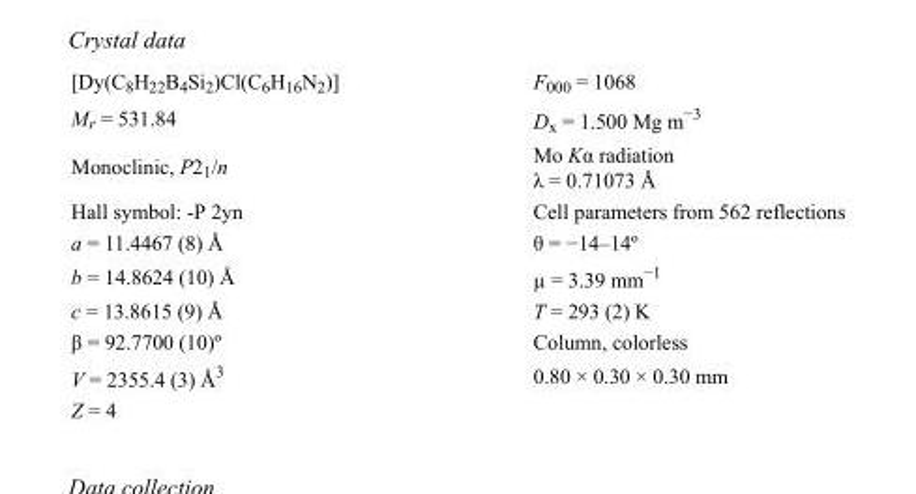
<table><tbody><tr><td>[Dy(C<sub>8</sub>H<sub>22</sub>B<sub>4</sub>Si<sub>2</sub>)Cl(C<sub>6</sub>H<sub>16</sub>N<sub>2</sub>)]</td><td>F<sub>000</sub> = 1068</td></tr><tr><td>M<sub>r</sub> = 531.84</td><td>D<sub>x</sub> = 1.500 Mg m<sup>−3</sup></td></tr><tr><td>Monoclinic, P2<sub>1</sub>/n</td><td>Mo Kα radiation λ = 0.71073 Å</td></tr><tr><td>Hall symbol: -P 2yn</td><td>Cell parameters from 562 reflections</td></tr><tr><td>a = 11.4467 (8) Å</td><td>θ = −14–14º</td></tr><tr><td>b = 14.8624 (10) Å</td><td>µ = 3.39 mm<sup>−1</sup></td></tr><tr><td>c = 13.8615 (9) Å</td><td>T = 293 (2) K</td></tr><tr><td>β = 92.7700 (10)º</td><td>Column, colorless</td></tr><tr><td>V = 2355.4 (3) Å<sup>3</sup></td><td>0.80 × 0.30 × 0.30 mm</td></tr><tr><td>Z = 4</td><td></td></tr></tbody></table>